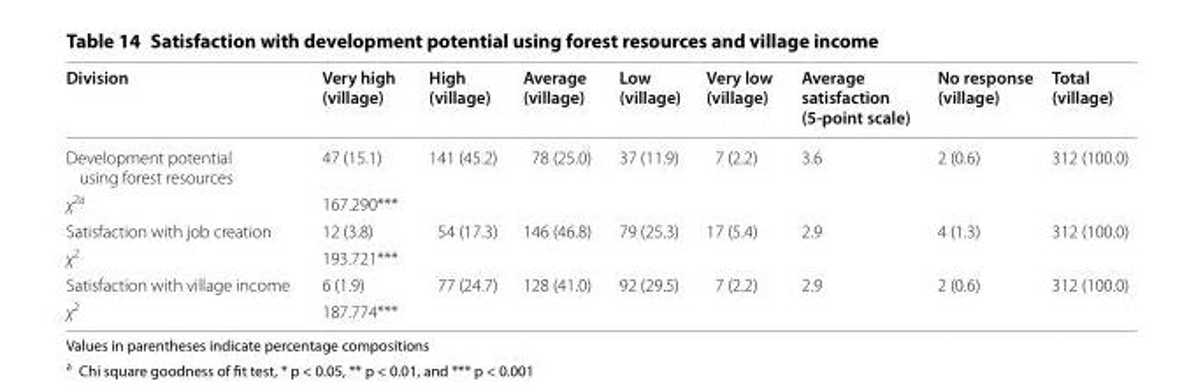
<table><thead><tr><td>Division</td><td>Very high (village)</td><td>High (village)</td><td>Average (village)</td><td>Low (village)</td><td>Very low (village)</td><td>Average satisfaction (5-point scale)</td><td>No response (village)</td><td>Total (village)</td></tr></thead><tbody><tr><td>Development potential using forest resources</td><td>47 (15.1)</td><td>141 (45.2)</td><td>78 (25.0)</td><td>37 (11.9)</td><td>7 (2.2)</td><td>3.6</td><td>2 (0.6)</td><td>312 (100.0)</td></tr><tr><td>χ<sup>2a</sup></td><td colspan="5">167.290***</td><td></td><td></td><td></td></tr><tr><td>Satisfaction with job creation</td><td>12 (3.8)</td><td>54 (17.3)</td><td>146 (46.8)</td><td>79 (25.3)</td><td>17 (5.4)</td><td>2.9</td><td>4 (1.3)</td><td>312 (100.0)</td></tr><tr><td>χ<sup>2</sup></td><td colspan="5">193.721***</td><td></td><td></td><td></td></tr><tr><td>Satisfaction with village income</td><td>6 (1.9)</td><td>77 (24.7)</td><td>128 (41.0)</td><td>92 (29.5)</td><td>7 (2.2)</td><td>2.9</td><td>2 (0.6)</td><td>312 (100.0)</td></tr><tr><td>χ<sup>2</sup></td><td colspan="5">187.774***</td><td></td><td></td><td></td></tr></tbody></table>